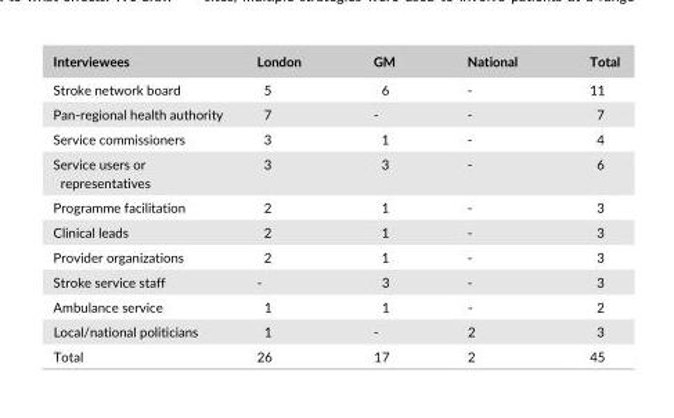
<table><thead><tr><td>Interviewees</td><td>London</td><td>GM</td><td>National</td><td>Total</td></tr></thead><tbody><tr><td>Stroke network board</td><td>5</td><td>6</td><td>-</td><td>11</td></tr><tr><td>Pan- regional health authority</td><td>7</td><td>-</td><td>-</td><td>7</td></tr><tr><td>Service commissioners</td><td>3</td><td>1</td><td>-</td><td>4</td></tr><tr><td>Service users or representatives</td><td>3</td><td>3</td><td>-</td><td>6</td></tr><tr><td>Programme facilitation</td><td>2</td><td>1</td><td>-</td><td>3</td></tr><tr><td>Clinical leads</td><td>2</td><td>1</td><td>-</td><td>3</td></tr><tr><td>Provider organizations</td><td>2</td><td>1</td><td>-</td><td>3</td></tr><tr><td>Stroke service staff</td><td>-</td><td>3</td><td>-</td><td>3</td></tr><tr><td>Ambulance service</td><td>1</td><td>1</td><td>-</td><td>2</td></tr><tr><td>Local/national politicians</td><td>1</td><td>-</td><td>2</td><td>3</td></tr><tr><td>Total</td><td>26</td><td>17</td><td>2</td><td>45</td></tr></tbody></table>